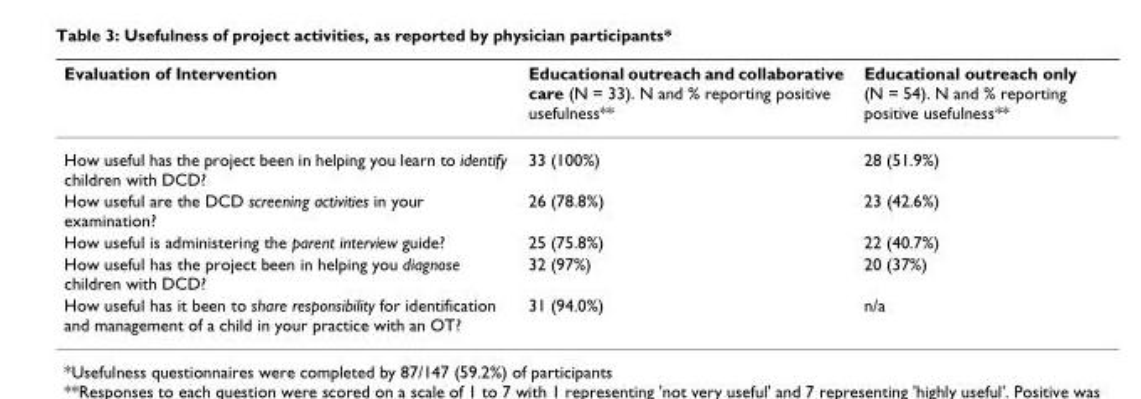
<table><thead><tr><td>Evaluation of Intervention</td><td>Educational outreach and collaborative care (N = 33). N and % reporting positive usefulness**</td><td>Educational outreach only (N = 54). N and % reporting positive usefulness**</td></tr></thead><tbody><tr><td>How useful has the project been in helping you learn to identify children with DCD?</td><td>33 (100%)</td><td>28 (51.9%)</td></tr><tr><td>How useful are the DCD screening activities in your examination?</td><td>26 (78.8%)</td><td>23 (42.6%)</td></tr><tr><td>How useful is administering the parent interview guide?</td><td>25 (75.8%)</td><td>22 (40.7%)</td></tr><tr><td>How useful has the project been in helping you diagnose children with DCD?</td><td>32 (97%)</td><td>20 (37%)</td></tr><tr><td>How useful has it been to share responsibility for identification and management of a child in your practice with an OT?</td><td>31 (94.0%)</td><td>n/a</td></tr></tbody></table>